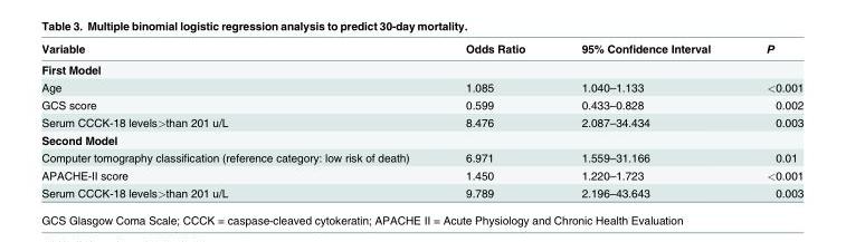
<table><thead><tr><td>Variable</td><td>Odds Ratio</td><td>95% Confidence Interval</td><td>P</td></tr></thead><tbody><tr><td colspan="4">First Model</td></tr><tr><td>Age</td><td>1.085</td><td>1.040–1.133</td><td>&lt;0.001</td></tr><tr><td>GCS score</td><td>0.599</td><td>0.433–0.828</td><td>0.002</td></tr><tr><td>Serum CCCK-18 levels&gt;than 201 u/L</td><td>8.476</td><td>2.087–34.434</td><td>0.003</td></tr><tr><td colspan="4">Second Model</td></tr><tr><td>Computer tomography classification (reference category: low risk of death)</td><td>6.971</td><td>1.559–31.166</td><td>0.01</td></tr><tr><td>APACHE-II score</td><td>1.450</td><td>1.220–1.723</td><td>&lt;0.001</td></tr><tr><td>Serum CCCK-18 levels&gt;than 201 u/L</td><td>9.789</td><td>2.196–43.643</td><td>0.003</td></tr></tbody></table>